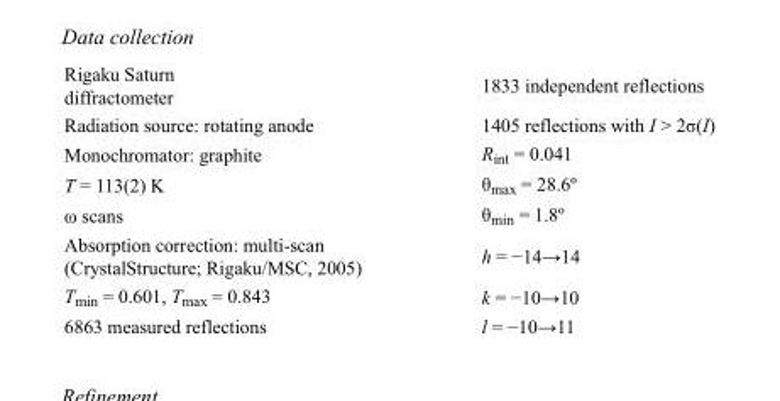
<table><tbody><tr><td>Rigaku Saturn diffractometer</td><td>1833 independent reflections</td></tr><tr><td>Radiation source: rotating anode</td><td>1405 reflections with I &gt; 2σ(I)</td></tr><tr><td>Monochromator: graphite</td><td>R<sub>int</sub> = 0.041</td></tr><tr><td>T = 113(2) K</td><td>θ<sub>max</sub> = 28.6º</td></tr><tr><td>ω scans</td><td>θ<sub>min</sub> = 1.8º</td></tr><tr><td>Absorption correction: multi-scan (CrystalStructure; Rigaku/MSC, 2005)</td><td>h = −14→14</td></tr><tr><td>T<sub>min</sub> = 0.601, T<sub>max</sub> = 0.843</td><td>k = −10→10</td></tr><tr><td>6863 measured reflections</td><td>l = −10→11</td></tr></tbody></table>